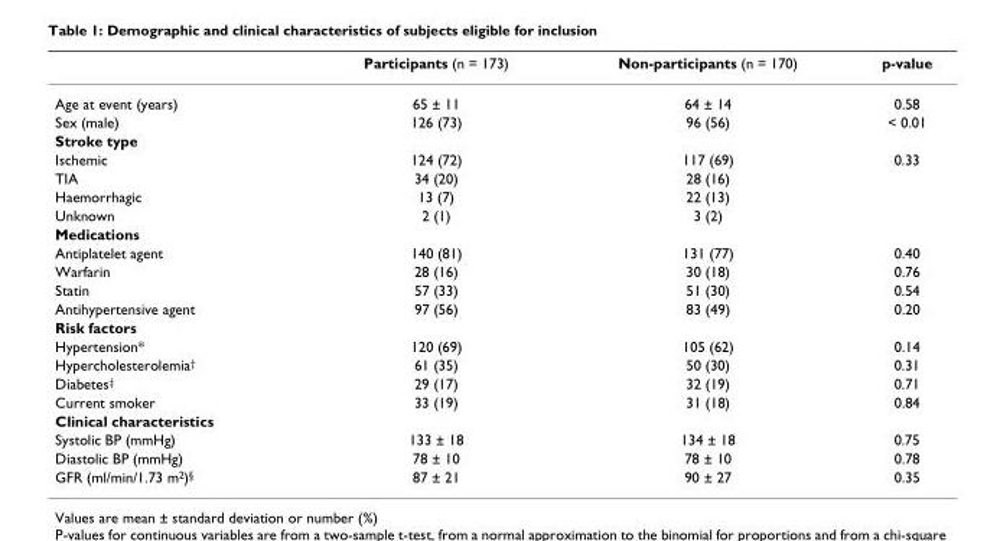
<table><thead><tr><td></td><td>Participants (n = 173)</td><td>Non-participants (n = 170)</td><td>p-value</td></tr></thead><tbody><tr><td>Age at event (years)</td><td>65 ± 11</td><td>64 ± 14</td><td>0.58</td></tr><tr><td>Sex (male)</td><td>126 (73)</td><td>96 (56)</td><td>&lt; 0.01</td></tr><tr><td colspan="4">Stroke type</td></tr><tr><td>Ischemic</td><td>124 (72)</td><td>117 (69)</td><td>0.33</td></tr><tr><td>TIA</td><td>34 (20)</td><td>28 (16)</td><td></td></tr><tr><td>Haemorrhagic</td><td>13 (7)</td><td>22 (13)</td><td></td></tr><tr><td>Unknown</td><td>2 (1)</td><td>3 (2)</td><td></td></tr><tr><td colspan="4">Medications</td></tr><tr><td>Antiplatelet agent</td><td>140 (81)</td><td>131 (77)</td><td>0.40</td></tr><tr><td>Warfarin</td><td>28 (16)</td><td>30 (18)</td><td>0.76</td></tr><tr><td>Statin</td><td>57 (33)</td><td>51 (30)</td><td>0.54</td></tr><tr><td>Antihypertensive agent</td><td>97 (56)</td><td>83 (49)</td><td>0.20</td></tr><tr><td colspan="4">Risk factors</td></tr><tr><td>Hypertension*</td><td>120 (69)</td><td>105 (62)</td><td>0.14</td></tr><tr><td>Hypercholesterolemia<sup>†</sup></td><td>61 (35)</td><td>50 (30)</td><td>0.31</td></tr><tr><td>Diabetes<sup>‡</sup></td><td>29 (17)</td><td>32 (19)</td><td>0.71</td></tr><tr><td>Current smoker</td><td>33 (19)</td><td>31 (18)</td><td>0.84</td></tr><tr><td colspan="4">Clinical characteristics</td></tr><tr><td>Systolic BP (mmHg)</td><td>133 ± 18</td><td>134 ± 18</td><td>0.75</td></tr><tr><td>Diastolic BP (mmHg)</td><td>78 ± 10</td><td>78 ± 10</td><td>0.78</td></tr><tr><td>GFR (ml/min/1.73 m<sup>2</sup>)<sup>§</sup></td><td>87 ± 21</td><td>90 ± 27</td><td>0.35</td></tr></tbody></table>